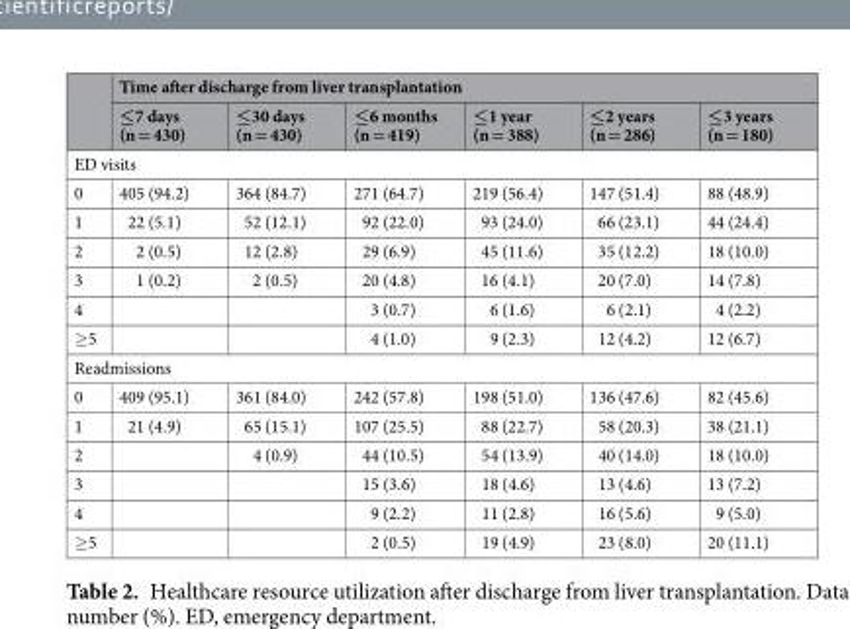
<table><thead><tr><td rowspan="2"></td><td colspan="6">Time after discharge from liver transplantation</td></tr><tr><td>≤7 days (n = 430)</td><td>≤30 days (n = 430)</td><td>≤6 months (n = 419)</td><td>≤1 year (n = 388)</td><td>≤2 years (n = 286)</td><td>≤3 years (n = 180)</td></tr></thead><tbody><tr><td colspan="7">ED visits</td></tr><tr><td>0</td><td>405 (94.2)</td><td>364 (84.7)</td><td>271 (64.7)</td><td>219 (56.4)</td><td>147 (51.4)</td><td>88 (48.9)</td></tr><tr><td>1</td><td>22 (5.1)</td><td>52 (12.1)</td><td>92 (22.0)</td><td>93 (24.0)</td><td>66 (23.1)</td><td>44 (24.4)</td></tr><tr><td>2</td><td>2 (0.5)</td><td>12 (2.8)</td><td>29 (6.9)</td><td>45 (11.6)</td><td>35 (12.2)</td><td>18 (10.0)</td></tr><tr><td>3</td><td>1 (0.2)</td><td>2 (0.5)</td><td>20 (4.8)</td><td>16 (4.1)</td><td>20 (7.0)</td><td>14 (7.8)</td></tr><tr><td>4</td><td></td><td></td><td>3 (0.7)</td><td>6 (1.6)</td><td>6 (2.1)</td><td>4 (2.2)</td></tr><tr><td>≥5</td><td></td><td></td><td>4 (1.0)</td><td>9 (2.3)</td><td>12 (4.2)</td><td>12 (6.7)</td></tr><tr><td colspan="7">Readmissions</td></tr><tr><td>0</td><td>409 (95.1)</td><td>361 (84.0)</td><td>242 (57.8)</td><td>198 (51.0)</td><td>136 (47.6)</td><td>82 (45.6)</td></tr><tr><td>1</td><td>21 (4.9)</td><td>65 (15.1)</td><td>107 (25.5)</td><td>88 (22.7)</td><td>58 (20.3)</td><td>38 (21.1)</td></tr><tr><td>2</td><td></td><td>4 (0.9)</td><td>44 (10.5)</td><td>54 (13.9)</td><td>40 (14.0)</td><td>18 (10.0)</td></tr><tr><td>3</td><td></td><td></td><td>15 (3.6)</td><td>18 (4.6)</td><td>13 (4.6)</td><td>13 (7.2)</td></tr><tr><td>4</td><td></td><td></td><td>9 (2.2)</td><td>11 (2.8)</td><td>16 (5.6)</td><td>9 (5.0)</td></tr><tr><td>≥5</td><td></td><td></td><td>2 (0.5)</td><td>19 (4.9)</td><td>23 (8.0)</td><td>20 (11.1)</td></tr></tbody></table>